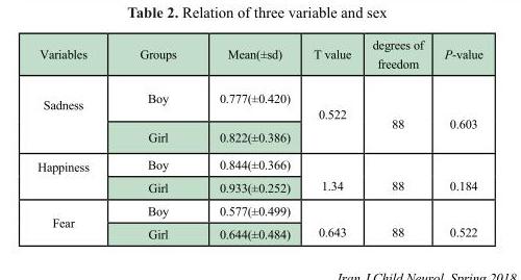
<table><thead><tr><td>Variables</td><td>Groups</td><td>Mean(±sd)</td><td>T value</td><td>degrees of freedom</td><td>P-value</td></tr></thead><tbody><tr><td rowspan="2">Sadness</td><td>Boy</td><td>0.777(±0.420)</td><td rowspan="2">0.522</td><td rowspan="2">88</td><td rowspan="2">0.603</td></tr><tr><td>Girl</td><td>0.822(±0.386)</td></tr><tr><td rowspan="2">Happiness</td><td>Boy</td><td>0.844(±0.366)</td><td rowspan="2">1.34</td><td rowspan="2">88</td><td rowspan="2">0.184</td></tr><tr><td>Girl</td><td>0.933(±0.252)</td></tr><tr><td rowspan="2">Fear</td><td>Boy</td><td>0.577(±0.499)</td><td rowspan="2">0.643</td><td rowspan="2">88</td><td rowspan="2">0.522</td></tr><tr><td>Girl</td><td>0.644(±0.484)</td></tr></tbody></table>